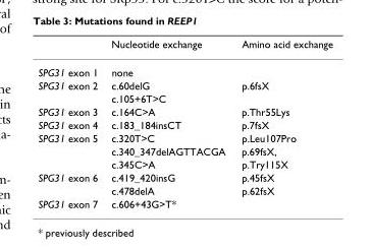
<table><thead><tr><td></td><td>Nucleotide exchange</td><td>Amino acid exchange</td></tr></thead><tbody><tr><td>SPG31 exon 1</td><td>none</td><td></td></tr><tr><td rowspan="2">SPG31 exon 2</td><td>c.60delG</td><td>p.6fsX</td></tr><tr><td>c.105+6T&gt;C</td><td></td></tr><tr><td>SPG31 exon 3</td><td>c.164C&gt;A</td><td>p.Thr55Lys</td></tr><tr><td>SPG31 exon 4</td><td>c.183_184insCT</td><td>p.7fsX</td></tr><tr><td rowspan="3">SPG31 exon 5</td><td>c.320T&gt;C</td><td>p.Leu107Pro</td></tr><tr><td>c.340_347delAGTTACGA</td><td>p.69fsX,</td></tr><tr><td>c.345C&gt;A</td><td>p.Try115X</td></tr><tr><td rowspan="2">SPG31 exon 6</td><td>c.419_420insG</td><td>p.45fsX</td></tr><tr><td>c.478delA</td><td>p.62fsX</td></tr><tr><td>SPG31 exon 7</td><td>c.606+43G&gt;T*</td><td></td></tr></tbody></table>